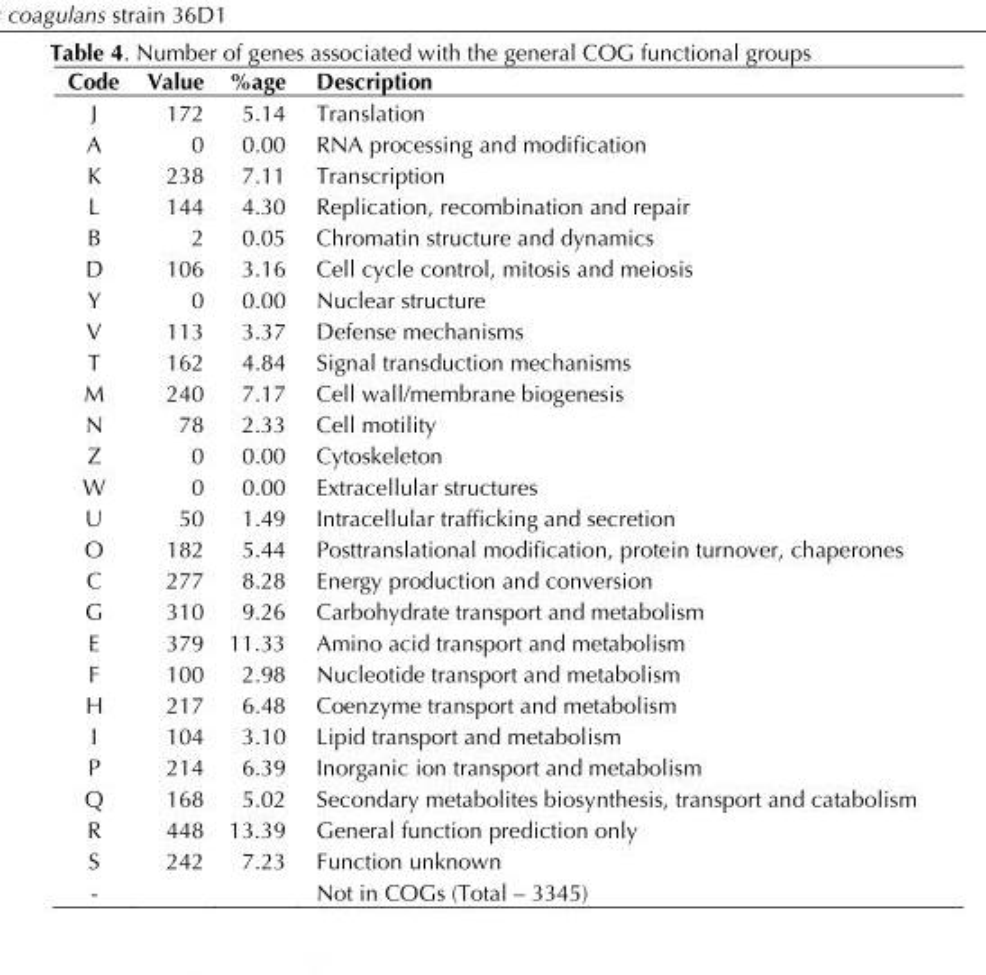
<table><thead><tr><td>Code</td><td>Value</td><td>%age</td><td>Description</td></tr></thead><tbody><tr><td>J</td><td>172</td><td>5.14</td><td>Translation</td></tr><tr><td>A</td><td>0</td><td>0.00</td><td>RNA processing and modification</td></tr><tr><td>K</td><td>238</td><td>7.11</td><td>Transcription</td></tr><tr><td>L</td><td>144</td><td>4.30</td><td>Replication, recombination and repair</td></tr><tr><td>B</td><td>2</td><td>0.05</td><td>Chromatin structure and dynamics</td></tr><tr><td>D</td><td>106</td><td>3.16</td><td>Cell cycle control, mitosis and meiosis</td></tr><tr><td>Y</td><td>0</td><td>0.00</td><td>Nuclear structure</td></tr><tr><td>V</td><td>113</td><td>3.37</td><td>Defense mechanisms</td></tr><tr><td>T</td><td>162</td><td>4.84</td><td>Signal transduction mechanisms</td></tr><tr><td>M</td><td>240</td><td>7.17</td><td>Cell wall/membrane biogenesis</td></tr><tr><td>N</td><td>78</td><td>2.33</td><td>Cell motility</td></tr><tr><td>Z</td><td>0</td><td>0.00</td><td>Cytoskeleton</td></tr><tr><td>W</td><td>0</td><td>0.00</td><td>Extracellular structures</td></tr><tr><td>U</td><td>50</td><td>1.49</td><td>Intracellular trafficking and secretion</td></tr><tr><td>O</td><td>182</td><td>5.44</td><td>Posttranslational modification, protein turnover, chaperones</td></tr><tr><td>C</td><td>277</td><td>8.28</td><td>Energy production and conversion</td></tr><tr><td>G</td><td>310</td><td>9.26</td><td>Carbohydrate transport and metabolism</td></tr><tr><td>E</td><td>379</td><td>11.33</td><td>Amino acid transport and metabolism</td></tr><tr><td>F</td><td>100</td><td>2.98</td><td>Nucleotide transport and metabolism</td></tr><tr><td>H</td><td>217</td><td>6.48</td><td>Coenzyme transport and metabolism</td></tr><tr><td>I</td><td>104</td><td>3.10</td><td>Lipid transport and metabolism</td></tr><tr><td>P</td><td>214</td><td>6.39</td><td>Inorganic ion transport and metabolism</td></tr><tr><td>Q</td><td>168</td><td>5.02</td><td>Secondary metabolites biosynthesis, transport and catabolism</td></tr><tr><td>R</td><td>448</td><td>13.39</td><td>General function prediction only</td></tr><tr><td>S</td><td>242</td><td>7.23</td><td>Function unknown</td></tr><tr><td>-</td><td></td><td></td><td>Not in COGs (Total – 3345)</td></tr></tbody></table>